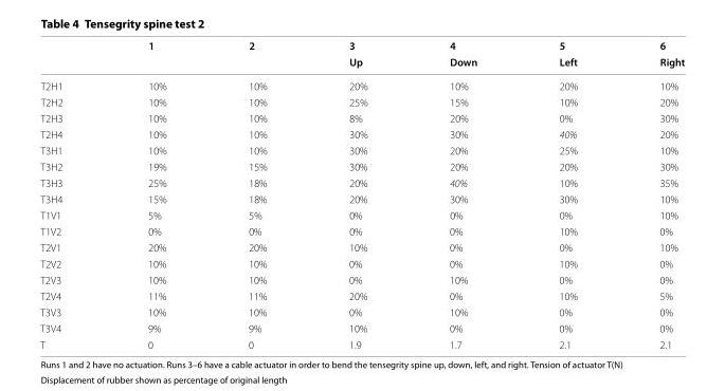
<table><thead><tr><td rowspan="2"></td><td rowspan="2">1</td><td rowspan="2">2</td><td rowspan="2">3 Up</td><td rowspan="2">4 Down</td><td rowspan="2">5 Left</td><td rowspan="2">6 Right</td></tr><tr></tr></thead><tbody><tr><td>T2H1</td><td>10%</td><td>10%</td><td>20%</td><td>10%</td><td>20%</td><td>10%</td></tr><tr><td>T2H2</td><td>10%</td><td>10%</td><td>25%</td><td>15%</td><td>10%</td><td>20%</td></tr><tr><td>T2H3</td><td>10%</td><td>10%</td><td>8%</td><td>20%</td><td>0%</td><td>30%</td></tr><tr><td>T2H4</td><td>10%</td><td>10%</td><td>30%</td><td>30%</td><td>40%</td><td>20%</td></tr><tr><td>T3H1</td><td>10%</td><td>10%</td><td>30%</td><td>20%</td><td>25%</td><td>10%</td></tr><tr><td>T3H2</td><td>19%</td><td>15%</td><td>30%</td><td>20%</td><td>20%</td><td>30%</td></tr><tr><td>T3H3</td><td>25%</td><td>18%</td><td>20%</td><td>40%</td><td>10%</td><td>35%</td></tr><tr><td>T3H4</td><td>15%</td><td>18%</td><td>20%</td><td>30%</td><td>30%</td><td>10%</td></tr><tr><td>T1V1</td><td>5%</td><td>5%</td><td>0%</td><td>0%</td><td>0%</td><td>10%</td></tr><tr><td>T1V2</td><td>0%</td><td>0%</td><td>0%</td><td>0%</td><td>10%</td><td>0%</td></tr><tr><td>T2V1</td><td>20%</td><td>20%</td><td>10%</td><td>0%</td><td>0%</td><td>10%</td></tr><tr><td>T2V2</td><td>10%</td><td>10%</td><td>0%</td><td>0%</td><td>10%</td><td>0%</td></tr><tr><td>T2V3</td><td>10%</td><td>10%</td><td>0%</td><td>10%</td><td>0%</td><td>0%</td></tr><tr><td>T2V4</td><td>11%</td><td>11%</td><td>20%</td><td>0%</td><td>10%</td><td>5%</td></tr><tr><td>T3V3</td><td>10%</td><td>10%</td><td>0%</td><td>10%</td><td>0%</td><td>0%</td></tr><tr><td>T3V4</td><td>9%</td><td>9%</td><td>10%</td><td>0%</td><td>0%</td><td>0%</td></tr><tr><td>T</td><td>0</td><td>0</td><td>1.9</td><td>1.7</td><td>2.1</td><td>2.1</td></tr></tbody></table>